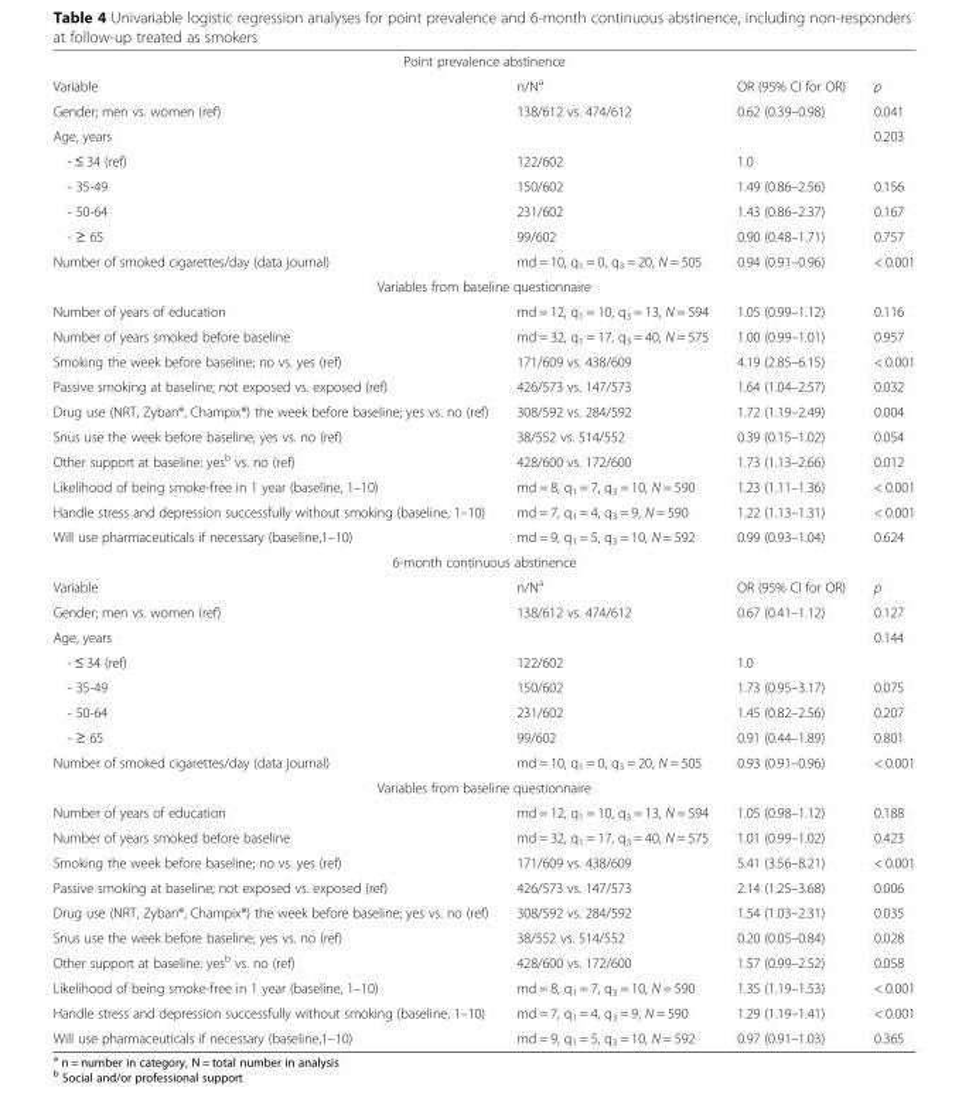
<table><tbody><tr><td colspan="4">Point prevalence abstinence</td></tr><tr><td>Variable</td><td>n/N<sup>a</sup></td><td>OR (95% CI for OR)</td><td>p</td></tr><tr><td>Gender; men vs. women (ref)</td><td>138/612 vs. 474/612</td><td>0.62 (0.39–0.98)</td><td>0.041</td></tr><tr><td>Age, years</td><td></td><td></td><td>0.203</td></tr><tr><td>- ≤ 34 (ref)</td><td>122/602</td><td>1.0</td><td></td></tr><tr><td>- 35-49</td><td>150/602</td><td>1.49 (0.86–2.56)</td><td>0.156</td></tr><tr><td>- 50-64</td><td>231/602</td><td>1.43 (0.86–2.37)</td><td>0.167</td></tr><tr><td>- ≥ 65</td><td>99/602</td><td>0.90 (0.48–1.71)</td><td>0.757</td></tr><tr><td>Number of smoked cigarettes/day (data journal)</td><td>md = 10, q<sub>1</sub> = 0, q<sub>3</sub> = 20, N = 505</td><td>0.94 (0.91–0.96)</td><td>&lt; 0.001</td></tr><tr><td colspan="4">Variables from baseline questionnaire</td></tr><tr><td>Number of years of education</td><td>md = 12, q<sub>1</sub> = 10, q<sub>3</sub> = 13, N = 594</td><td>1.05 (0.99–1.12)</td><td>0.116</td></tr><tr><td>Number of years smoked before baseline</td><td>md = 32, q<sub>1</sub> = 17, q<sub>3</sub> = 40, N = 575</td><td>1.00 (0.99–1.01)</td><td>0.957</td></tr><tr><td>Smoking the week before baseline; no vs. yes (ref)</td><td>171/609 vs. 438/609</td><td>4.19 (2.85–6.15)</td><td>&lt; 0.001</td></tr><tr><td>Passive smoking at baseline; not exposed vs. exposed (ref)</td><td>426/573 vs. 147/573</td><td>1.64 (1.04–2.57)</td><td>0.032</td></tr><tr><td>Drug use (NRT, Zyban®, Champix®) the week before baseline; yes vs. no (ref)</td><td>308/592 vs. 284/592</td><td>1.72 (1.19–2.49)</td><td>0.004</td></tr><tr><td>Snus use the week before baseline; yes vs. no (ref)</td><td>38/552 vs. 514/552</td><td>0.39 (0.15–1.02)</td><td>0.054</td></tr><tr><td>Other support at baseline: yes<sup>b</sup> vs. no (ref)</td><td>428/600 vs. 172/600</td><td>1.73 (1.13–2.66)</td><td>0.012</td></tr><tr><td>Likelihood of being smoke-free in 1 year (baseline, 1–10)</td><td>md = 8, q<sub>1</sub> = 7, q<sub>3</sub> = 10, N = 590</td><td>1.23 (1.11–1.36)</td><td>&lt; 0.001</td></tr><tr><td>Handle stress and depression successfully without smoking (baseline, 1–10)</td><td>md = 7, q<sub>1</sub> = 4, q<sub>3</sub> = 9, N = 590</td><td>1.22 (1.13–1.31)</td><td>&lt; 0.001</td></tr><tr><td>Will use pharmaceuticals if necessary (baseline,1–10)</td><td>md = 9, q<sub>1</sub> = 5, q<sub>3</sub> = 10, N = 592</td><td>0.99 (0.93–1.04)</td><td>0.624</td></tr><tr><td colspan="4">6-month continuous abstinence</td></tr><tr><td>Variable</td><td>n/N<sup>a</sup></td><td>OR (95% CI for OR)</td><td>p</td></tr><tr><td>Gender; men vs. women (ref)</td><td>138/612 vs. 474/612</td><td>0.67 (0.41–1.12)</td><td>0.127</td></tr><tr><td>Age, years</td><td></td><td></td><td>0.144</td></tr><tr><td>- ≤ 34 (ref)</td><td>122/602</td><td>1.0</td><td></td></tr><tr><td>- 35-49</td><td>150/602</td><td>1.73 (0.95–3.17)</td><td>0.075</td></tr><tr><td>- 50-64</td><td>231/602</td><td>1.45 (0.82–2.56)</td><td>0.207</td></tr><tr><td>- ≥ 65</td><td>99/602</td><td>0.91 (0.44–1.89)</td><td>0.801</td></tr><tr><td>Number of smoked cigarettes/day (data journal)</td><td>md = 10, q<sub>1</sub> = 0, q<sub>3</sub> = 20, N = 505</td><td>0.93 (0.91–0.96)</td><td>&lt; 0.001</td></tr><tr><td colspan="4">Variables from baseline questionnaire</td></tr><tr><td>Number of years of education</td><td>md = 12, q<sub>1</sub> = 10, q<sub>3</sub> = 13, N = 594</td><td>1.05 (0.98–1.12)</td><td>0.188</td></tr><tr><td>Number of years smoked before baseline</td><td>md = 32, q<sub>1</sub> = 17, q<sub>3</sub> = 40, N = 575</td><td>1.01 (0.99–1.02)</td><td>0.423</td></tr><tr><td>Smoking the week before baseline; no vs. yes (ref)</td><td>171/609 vs. 438/609</td><td>5.41 (3.56–8.21)</td><td>&lt; 0.001</td></tr><tr><td>Passive smoking at baseline; not exposed vs. exposed (ref)</td><td>426/573 vs. 147/573</td><td>2.14 (1.25–3.68)</td><td>0.006</td></tr><tr><td>Drug use (NRT, Zyban®, Champix®) the week before baseline; yes vs. no (ref)</td><td>308/592 vs. 284/592</td><td>1.54 (1.03–2.31)</td><td>0.035</td></tr><tr><td>Snus use the week before baseline; yes vs. no (ref)</td><td>38/552 vs. 514/552</td><td>0.20 (0.05–0.84)</td><td>0.028</td></tr><tr><td>Other support at baseline: yes<sup>b</sup> vs. no (ref)</td><td>428/600 vs. 172/600</td><td>1.57 (0.99–2.52)</td><td>0.058</td></tr><tr><td>Likelihood of being smoke-free in 1 year (baseline, 1–10)</td><td>md = 8, q<sub>1</sub> = 7, q<sub>3</sub> = 10, N = 590</td><td>1.35 (1.19–1.53)</td><td>&lt; 0.001</td></tr><tr><td>Handle stress and depression successfully without smoking (baseline, 1–10)</td><td>md = 7, q<sub>1</sub> = 4, q<sub>3</sub> = 9, N = 590</td><td>1.29 (1.19–1.41)</td><td>&lt; 0.001</td></tr><tr><td>Will use pharmaceuticals if necessary (baseline,1–10)</td><td>md = 9, q<sub>1</sub> = 5, q<sub>3</sub> = 10, N = 592</td><td>0.97 (0.91–1.03)</td><td>0.365</td></tr></tbody></table>